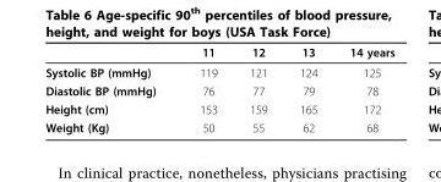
<table><thead><tr><td></td><td>11</td><td>12</td><td>13</td><td>14 years</td></tr></thead><tbody><tr><td>Systolic BP (mmHg)</td><td>119</td><td>121</td><td>124</td><td>125</td></tr><tr><td>Diastolic BP (mmHg)</td><td>76</td><td>77</td><td>79</td><td>78</td></tr><tr><td>Height (cm)</td><td>153</td><td>159</td><td>165</td><td>172</td></tr><tr><td>Weight (Kg)</td><td>50</td><td>55</td><td>62</td><td>68</td></tr></tbody></table>